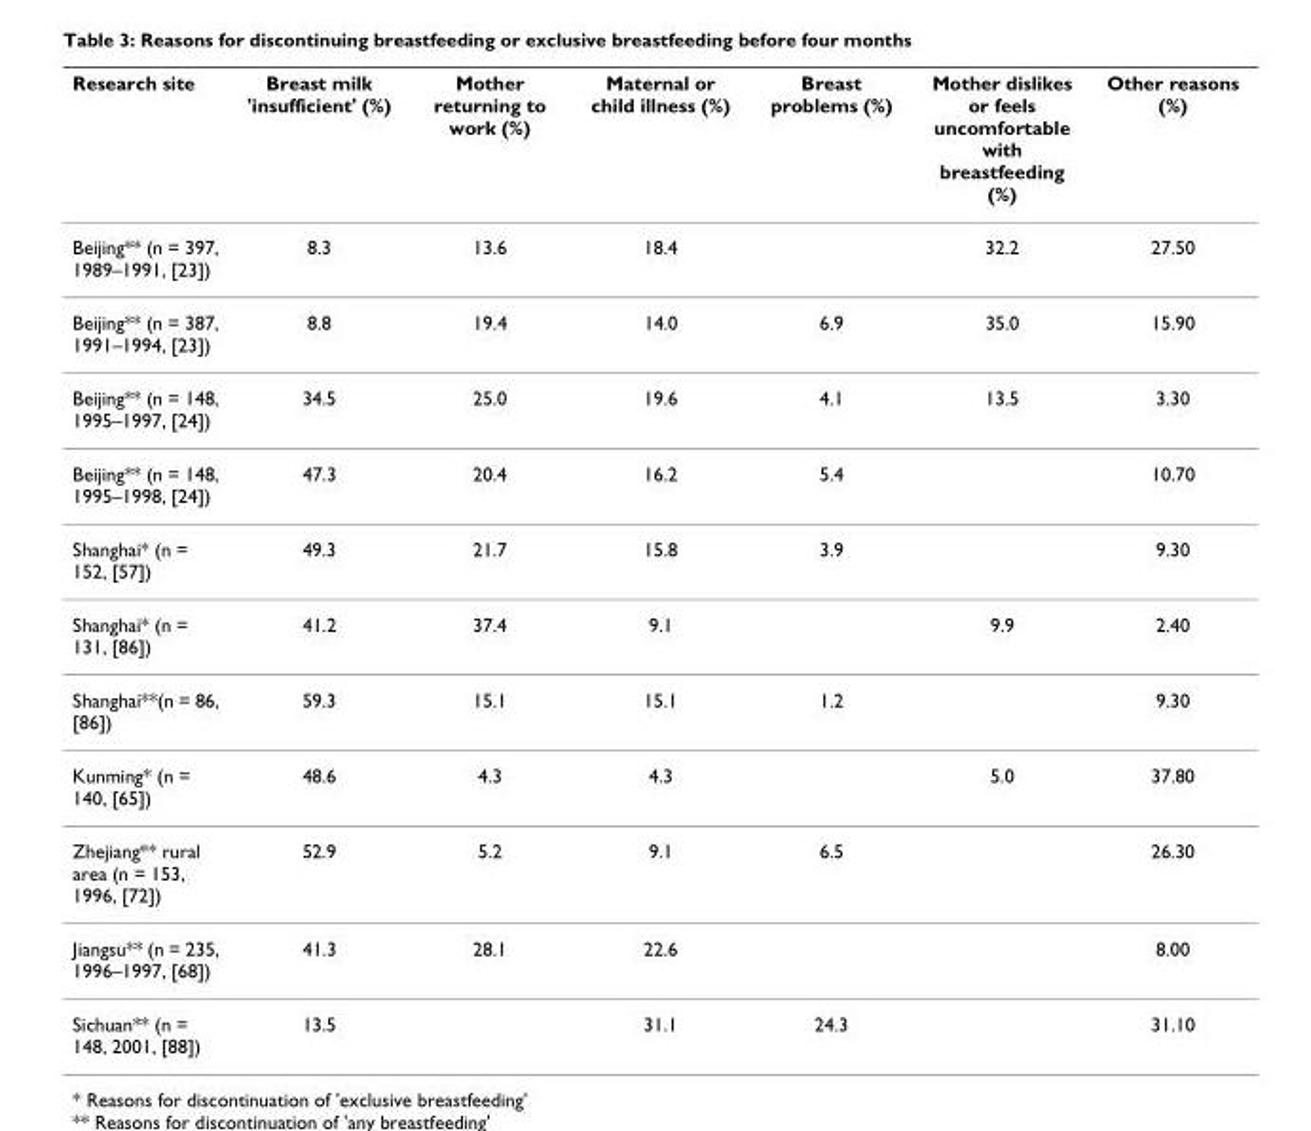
<table><thead><tr><td>Research site</td><td>Breast milk &#x27;insufficient&#x27; (%)</td><td>Mother returning to work (%)</td><td>Maternal or child illness (%)</td><td>Breast problems (%)</td><td>Mother dislikes or feels uncomfortable with breastfeeding (%)</td><td>Other reasons (%)</td></tr></thead><tbody><tr><td>Beijing** (n = 397, 1989–1991, [23])</td><td>8.3</td><td>13.6</td><td>18.4</td><td></td><td>32.2</td><td>27.50</td></tr><tr><td>Beijing** (n = 387, 1991–1994, [23])</td><td>8.8</td><td>19.4</td><td>14.0</td><td>6.9</td><td>35.0</td><td>15.90</td></tr><tr><td>Beijing** (n = 148, 1995–1997, [24])</td><td>34.5</td><td>25.0</td><td>19.6</td><td>4.1</td><td>13.5</td><td>3.30</td></tr><tr><td>Beijing** (n = 148, 1995–1998, [24])</td><td>47.3</td><td>20.4</td><td>16.2</td><td>5.4</td><td></td><td>10.70</td></tr><tr><td>Shanghai* (n = 152, [57])</td><td>49.3</td><td>21.7</td><td>15.8</td><td>3.9</td><td></td><td>9.30</td></tr><tr><td>Shanghai* (n = 131, [86])</td><td>41.2</td><td>37.4</td><td>9.1</td><td></td><td>9.9</td><td>2.40</td></tr><tr><td>Shanghai**(n = 86, [86])</td><td>59.3</td><td>15.1</td><td>15.1</td><td>1.2</td><td></td><td>9.30</td></tr><tr><td>Kunming* (n = 140, [65])</td><td>48.6</td><td>4.3</td><td>4.3</td><td></td><td>5.0</td><td>37.80</td></tr><tr><td>Zhejiang** rural area (n = 153, 1996, [72])</td><td>52.9</td><td>5.2</td><td>9.1</td><td>6.5</td><td></td><td>26.30</td></tr><tr><td>Jiangsu** (n = 235, 1996–1997, [68])</td><td>41.3</td><td>28.1</td><td>22.6</td><td></td><td></td><td>8.00</td></tr><tr><td>Sichuan** (n = 148, 2001, [88])</td><td>13.5</td><td></td><td>31.1</td><td>24.3</td><td></td><td>31.10</td></tr></tbody></table>